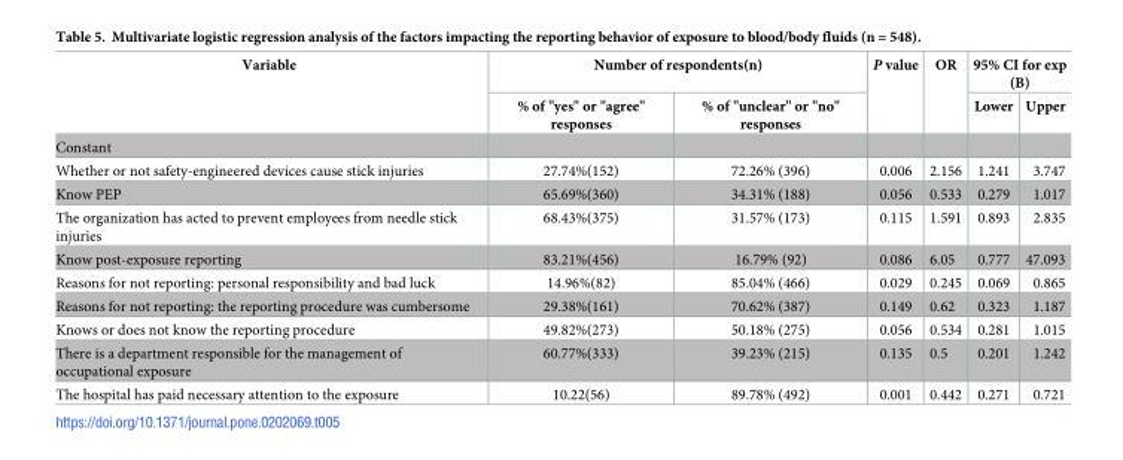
<table><thead><tr><td rowspan="2">Variable</td><td colspan="2">Number of respondents(n)</td><td rowspan="2">P value</td><td rowspan="2">OR</td><td colspan="2">95% CI for exp (B)</td></tr><tr><td>% of &quot;yes&quot; or &quot;agree&quot; responses</td><td>% of &quot;unclear&quot; or &quot;no&quot; responses</td><td>Lower</td><td>Upper</td></tr></thead><tbody><tr><td colspan="7">Constant</td></tr><tr><td>Whether or not safety-engineered devices cause stick injuries</td><td>27.74%(152)</td><td>72.26% (396)</td><td>0.006</td><td>2.156</td><td>1.241</td><td>3.747</td></tr><tr><td>Know PEP</td><td>65.69%(360)</td><td>34.31% (188)</td><td>0.056</td><td>0.533</td><td>0.279</td><td>1.017</td></tr><tr><td>The organization has acted to prevent employees from needle stick injuries</td><td>68.43%(375)</td><td>31.57% (173)</td><td>0.115</td><td>1.591</td><td>0.893</td><td>2.835</td></tr><tr><td>Know post-exposure reporting</td><td>83.21%(456)</td><td>16.79% (92)</td><td>0.086</td><td>6.05</td><td>0.777</td><td>47.093</td></tr><tr><td>Reasons for not reporting: personal responsibility and bad luck</td><td>14.96%(82)</td><td>85.04% (466)</td><td>0.029</td><td>0.245</td><td>0.069</td><td>0.865</td></tr><tr><td>Reasons for not reporting: the reporting procedure was cumbersome</td><td>29.38%(161)</td><td>70.62% (387)</td><td>0.149</td><td>0.62</td><td>0.323</td><td>1.187</td></tr><tr><td>Knows or does not know the reporting procedure</td><td>49.82%(273)</td><td>50.18% (275)</td><td>0.056</td><td>0.534</td><td>0.281</td><td>1.015</td></tr><tr><td>There is a department responsible for the management of occupational exposure</td><td>60.77%(333)</td><td>39.23% (215)</td><td>0.135</td><td>0.5</td><td>0.201</td><td>1.242</td></tr><tr><td>The hospital has paid necessary attention to the exposure</td><td>10.22(56)</td><td>89.78% (492)</td><td>0.001</td><td>0.442</td><td>0.271</td><td>0.721</td></tr></tbody></table>